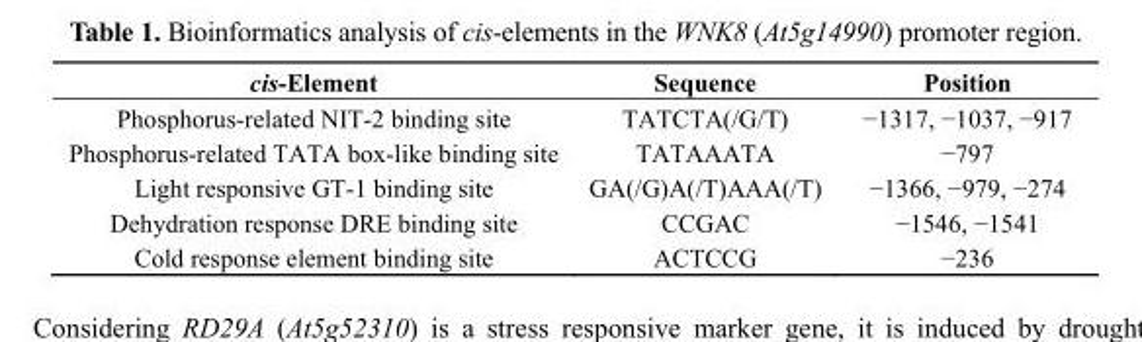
<table><thead><tr><td>cis-Element</td><td>Sequence</td><td>Position</td></tr></thead><tbody><tr><td>Phosphorus-related NIT-2 binding site</td><td>TATCTA(/G/T)</td><td>−1317, −1037, −917</td></tr><tr><td>Phosphorus-related TATA box-like binding site</td><td>TATAAATA</td><td>−797</td></tr><tr><td>Light responsive GT-1 binding site</td><td>GA(/G)A(/T)AAA(/T)</td><td>−1366, −979, −274</td></tr><tr><td>Dehydration response DRE binding site</td><td>CCGAC</td><td>−1546, −1541</td></tr><tr><td>Cold response element binding site</td><td>ACTCCG</td><td>−236</td></tr></tbody></table>